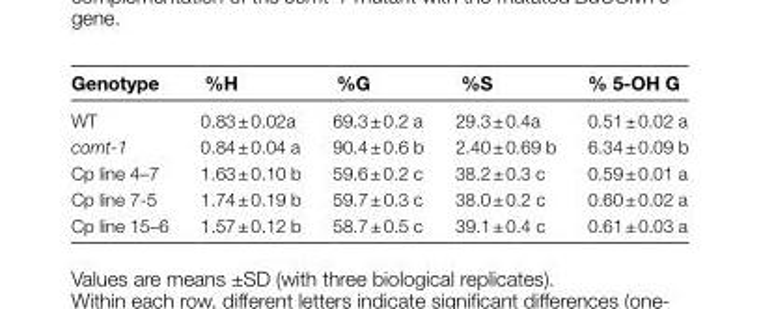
<table><thead><tr><td>Genotype</td><td>%H</td><td>%G</td><td>%S</td><td>% 5-OH G</td></tr></thead><tbody><tr><td>WT</td><td>0.83 ± 0.02a</td><td>69.3 ± 0.2 a</td><td>29.3 ± 0.4a</td><td>0.51 ± 0.02 a</td></tr><tr><td>comt-1</td><td>0.84 ± 0.04 a</td><td>90.4 ± 0.6 b</td><td>2.40 ± 0.69 b</td><td>6.34 ± 0.09 b</td></tr><tr><td>Cp line 4–7</td><td>1.63 ± 0.10 b</td><td>59.6 ± 0.2 c</td><td>38.2 ± 0.3 c</td><td>0.59 ± 0.01 a</td></tr><tr><td>Cp line 7-5</td><td>1.74 ± 0.19 b</td><td>59.7 ± 0.3 c</td><td>38.0 ± 0.2 c</td><td>0.60 ± 0.02 a</td></tr><tr><td>Cp line 15–6</td><td>1.57 ± 0.12 b</td><td>58.7 ± 0.5 c</td><td>39.1 ± 0.4 c</td><td>0.61 ± 0.03 a</td></tr></tbody></table>